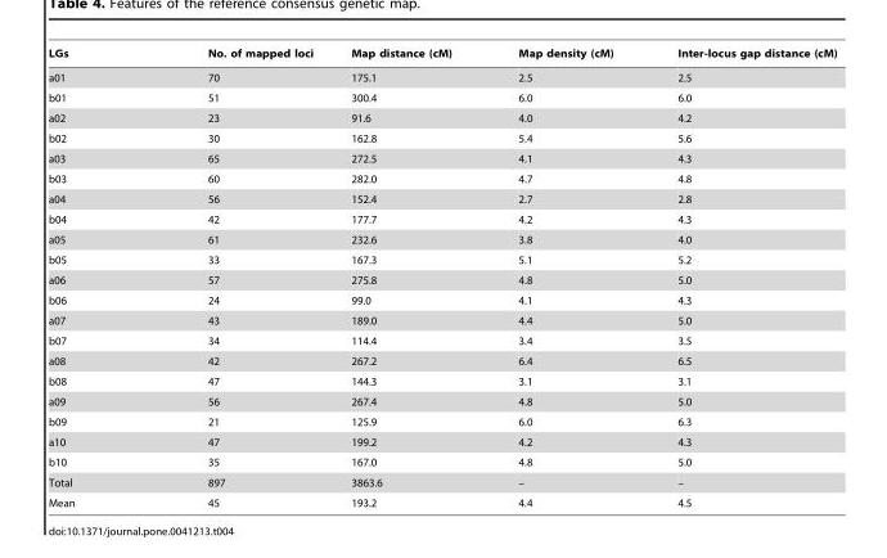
<table><thead><tr><td>LGs</td><td>No. of mapped loci</td><td>Map distance (cM)</td><td>Map density (cM)</td><td>Inter-locus gap distance (cM)</td></tr></thead><tbody><tr><td>a01</td><td>70</td><td>175.1</td><td>2.5</td><td>2.5</td></tr><tr><td>b01</td><td>51</td><td>300.4</td><td>6.0</td><td>6.0</td></tr><tr><td>a02</td><td>23</td><td>91.6</td><td>4.0</td><td>4.2</td></tr><tr><td>b02</td><td>30</td><td>162.8</td><td>5.4</td><td>5.6</td></tr><tr><td>a03</td><td>65</td><td>272.5</td><td>4.1</td><td>4.3</td></tr><tr><td>b03</td><td>60</td><td>282.0</td><td>4.7</td><td>4.8</td></tr><tr><td>a04</td><td>56</td><td>152.4</td><td>2.7</td><td>2.8</td></tr><tr><td>b04</td><td>42</td><td>177.7</td><td>4.2</td><td>4.3</td></tr><tr><td>a05</td><td>61</td><td>232.6</td><td>3.8</td><td>4.0</td></tr><tr><td>b05</td><td>33</td><td>167.3</td><td>5.1</td><td>5.2</td></tr><tr><td>a06</td><td>57</td><td>275.8</td><td>4.8</td><td>5.0</td></tr><tr><td>b06</td><td>24</td><td>99.0</td><td>4.1</td><td>4.3</td></tr><tr><td>a07</td><td>43</td><td>189.0</td><td>4.4</td><td>5.0</td></tr><tr><td>b07</td><td>34</td><td>114.4</td><td>3.4</td><td>3.5</td></tr><tr><td>a08</td><td>42</td><td>267.2</td><td>6.4</td><td>6.5</td></tr><tr><td>b08</td><td>47</td><td>144.3</td><td>3.1</td><td>3.1</td></tr><tr><td>a09</td><td>56</td><td>267.4</td><td>4.8</td><td>5.0</td></tr><tr><td>b09</td><td>21</td><td>125.9</td><td>6.0</td><td>6.3</td></tr><tr><td>a10</td><td>47</td><td>199.2</td><td>4.2</td><td>4.3</td></tr><tr><td>b10</td><td>35</td><td>167.0</td><td>4.8</td><td>5.0</td></tr><tr><td>Total</td><td>897</td><td>3863.6</td><td>–</td><td>–</td></tr><tr><td>Mean</td><td>45</td><td>193.2</td><td>4.4</td><td>4.5</td></tr></tbody></table>